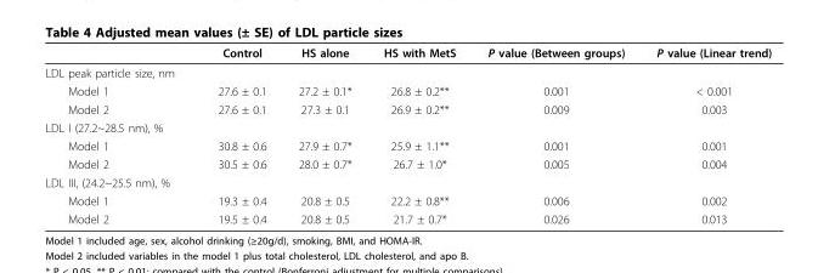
<table><thead><tr><td></td><td>Control</td><td>HS alone</td><td>HS with MetS</td><td>P value (Between groups)</td><td>P value (Linear trend)</td></tr></thead><tbody><tr><td colspan="6">LDL peak particle size, nm</td></tr><tr><td>Model 1</td><td>27.6 ± 0.1</td><td>27.2 ± 0.1*</td><td>26.8 ± 0.2**</td><td>0.001</td><td>&lt; 0.001</td></tr><tr><td>Model 2</td><td>27.6 ± 0.1</td><td>27.3 ± 0.1</td><td>26.9 ± 0.2**</td><td>0.009</td><td>0.003</td></tr><tr><td colspan="6">LDL I (27.2~28.5 nm), %</td></tr><tr><td>Model 1</td><td>30.8 ± 0.6</td><td>27.9 ± 0.7*</td><td>25.9 ± 1.1**</td><td>0.001</td><td>0.001</td></tr><tr><td>Model 2</td><td>30.5 ± 0.6</td><td>28.0 ± 0.7*</td><td>26.7 ± 1.0*</td><td>0.005</td><td>0.004</td></tr><tr><td colspan="6">LDL III, (24.2~25.5 nm), %</td></tr><tr><td>Model 1</td><td>19.3 ± 0.4</td><td>20.8 ± 0.5</td><td>22.2 ± 0.8**</td><td>0.006</td><td>0.002</td></tr><tr><td>Model 2</td><td>19.5 ± 0.4</td><td>20.8 ± 0.5</td><td>21.7 ± 0.7*</td><td>0.026</td><td>0.013</td></tr></tbody></table>